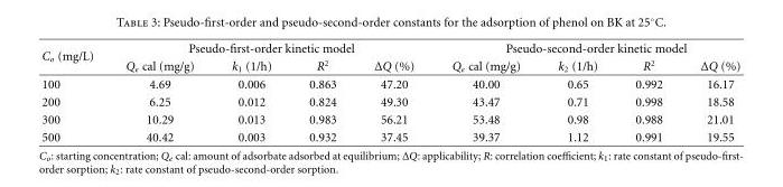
<table><thead><tr><td rowspan="2">C<sub>o</sub> (mg/L)</td><td colspan="4">Pseudo-first-order kinetic model</td><td colspan="4">Pseudo-second-order kinetic model</td></tr><tr><td>Q<sub>e</sub> cal (mg/g)</td><td>k<sub>1</sub> (1/h)</td><td>R<sup>2</sup></td><td>ΔQ (%)</td><td>Q<sub>e</sub> cal (mg/g)</td><td>k<sub>2</sub> (1/h)</td><td>R<sup>2</sup></td><td>ΔQ (%)</td></tr></thead><tbody><tr><td>100</td><td>4.69</td><td>0.006</td><td>0.863</td><td>47.20</td><td>40.00</td><td>0.65</td><td>0.992</td><td>16.17</td></tr><tr><td>200</td><td>6.25</td><td>0.012</td><td>0.824</td><td>49.30</td><td>43.47</td><td>0.71</td><td>0.998</td><td>18.58</td></tr><tr><td>300</td><td>10.29</td><td>0.013</td><td>0.983</td><td>56.21</td><td>53.48</td><td>0.98</td><td>0.988</td><td>21.01</td></tr><tr><td>500</td><td>40.42</td><td>0.003</td><td>0.932</td><td>37.45</td><td>39.37</td><td>1.12</td><td>0.991</td><td>19.55</td></tr></tbody></table>